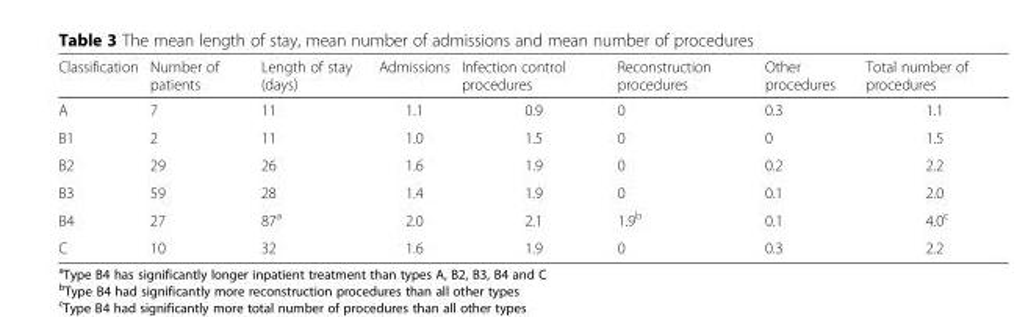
<table><thead><tr><td>Classification</td><td>Number of patients</td><td>Length of stay (days)</td><td>Admissions</td><td>Infection control procedures</td><td>Reconstruction procedures</td><td>Other procedures</td><td>Total number of procedures</td></tr></thead><tbody><tr><td>A</td><td>7</td><td>11</td><td>1.1</td><td>0.9</td><td>0</td><td>0.3</td><td>1.1</td></tr><tr><td>B1</td><td>2</td><td>11</td><td>1.0</td><td>1.5</td><td>0</td><td>0</td><td>1.5</td></tr><tr><td>B2</td><td>29</td><td>26</td><td>1.6</td><td>1.9</td><td>0</td><td>0.2</td><td>2.2</td></tr><tr><td>B3</td><td>59</td><td>28</td><td>1.4</td><td>1.9</td><td>0</td><td>0.1</td><td>2.0</td></tr><tr><td>B4</td><td>27</td><td>87<sup>a</sup></td><td>2.0</td><td>2.1</td><td>1.9<sup>b</sup></td><td>0.1</td><td>4.0<sup>c</sup></td></tr><tr><td>C</td><td>10</td><td>32</td><td>1.6</td><td>1.9</td><td>0</td><td>0.3</td><td>2.2</td></tr></tbody></table>